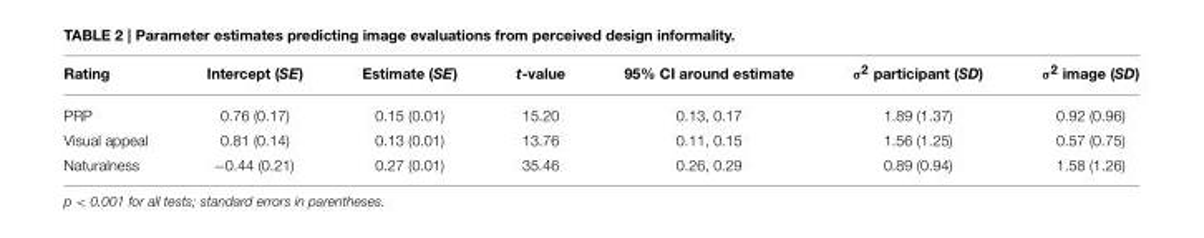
<table><thead><tr><td>Rating</td><td>Intercept (SE)</td><td>Estimate (SE)</td><td>t-value</td><td>95% CI around estimate</td><td>σ<sup>2</sup> participant (SD)</td><td>σ<sup>2</sup> image (SD)</td></tr></thead><tbody><tr><td>PRP</td><td>0.76 (0.17)</td><td>0.15 (0.01)</td><td>15.20</td><td>0.13, 0.17</td><td>1.89 (1.37)</td><td>0.92 (0.96)</td></tr><tr><td>Visual appeal</td><td>0.81 (0.14)</td><td>0.13 (0.01)</td><td>13.76</td><td>0.11, 0.15</td><td>1.56 (1.25)</td><td>0.57 (0.75)</td></tr><tr><td>Naturalness</td><td>−0.44 (0.21)</td><td>0.27 (0.01)</td><td>35.46</td><td>0.26, 0.29</td><td>0.89 (0.94)</td><td>1.58 (1.26)</td></tr></tbody></table>